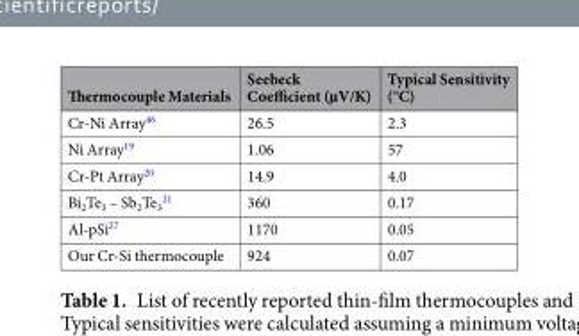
<table><thead><tr><td>Thermocouple Materials</td><td>Seebeck Coefficient (µV/K)</td><td>Typical Sensitivity (°C)</td></tr></thead><tbody><tr><td>Cr-Ni Array<sup>46</sup></td><td>26.5</td><td>2.3</td></tr><tr><td>Ni Array<sup>19</sup></td><td>1.06</td><td>57</td></tr><tr><td>Cr-Pt Array<sup>20</sup></td><td>14.9</td><td>4.0</td></tr><tr><td>Bi<sub>2</sub>Te<sub>3</sub> – Sb<sub>2</sub>Te<sub>3</sub> <sup>21</sup></td><td>360</td><td>0.17</td></tr><tr><td>Al-pSi<sup>27</sup></td><td>1170</td><td>0.05</td></tr><tr><td>Our Cr-Si thermocouple</td><td>924</td><td>0.07</td></tr></tbody></table>